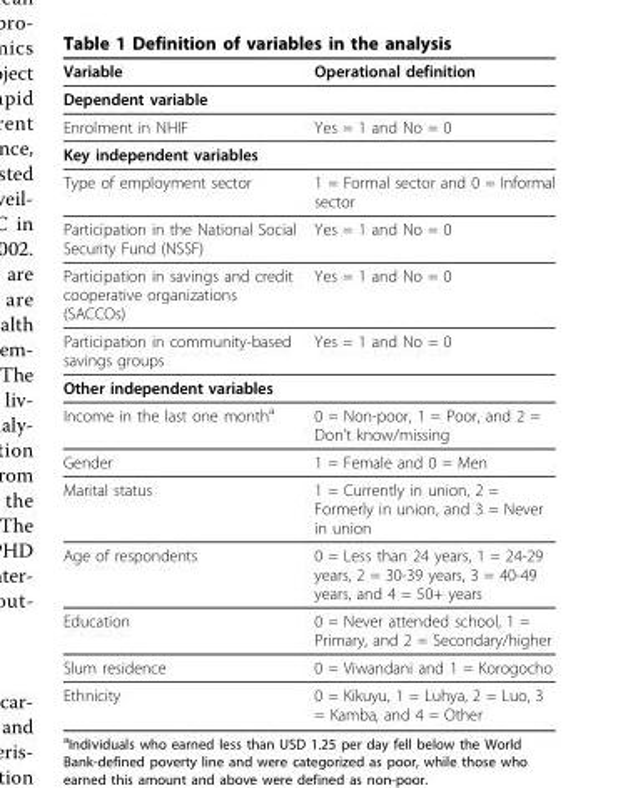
<table><thead><tr><td>Variable</td><td>Operational definition</td></tr></thead><tbody><tr><td colspan="2">Dependent variable</td></tr><tr><td>Enrolment in NHIF</td><td>Yes = 1 and No = 0</td></tr><tr><td colspan="2">Key independent variables</td></tr><tr><td>Type of employment sector</td><td>1 = Formal sector and 0 = Informal sector</td></tr><tr><td>Participation in the National Social Security Fund (NSSF)</td><td>Yes = 1 and No = 0</td></tr><tr><td>Participation in savings and credit cooperative organizations (SACCOs)</td><td>Yes = 1 and No = 0</td></tr><tr><td>Participation in community-based savings groups</td><td>Yes = 1 and No = 0</td></tr><tr><td colspan="2">Other independent variables</td></tr><tr><td>Income in the last one montha</td><td>0 = Non-poor, 1 = Poor, and 2 = Don’t know/missing</td></tr><tr><td>Gender</td><td>1 = Female and 0 = Men</td></tr><tr><td>Marital status</td><td>1 = Currently in union, 2 = Formerly in union, and 3 = Never in union</td></tr><tr><td>Age of respondents</td><td>0 = Less than 24 years, 1 = 24-29 years, 2 = 30-39 years, 3 = 40-49 years, and 4 = 50+ years</td></tr><tr><td>Education</td><td>0 = Never attended school, 1 = Primary, and 2 = Secondary/higher</td></tr><tr><td>Slum residence</td><td>0 = Viwandani and 1 = Korogocho</td></tr><tr><td>Ethnicity</td><td>0 = Kikuyu, 1 = Luhya, 2 = Luo, 3 = Kamba, and 4 = Other</td></tr></tbody></table>